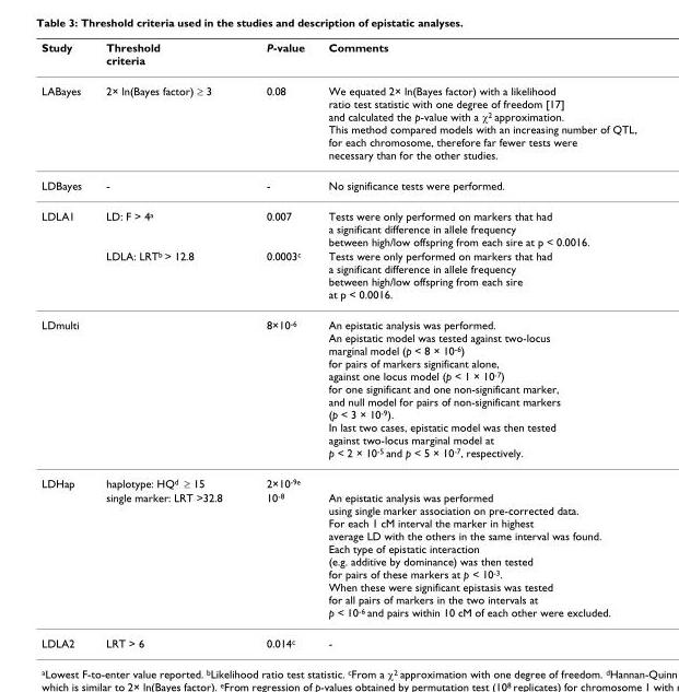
<table><thead><tr><td>Study</td><td>Threshold criteria</td><td>P-value</td><td>Comments</td></tr></thead><tbody><tr><td>LABayes</td><td>2× ln(Bayes factor) ≥ 3</td><td>0.08</td><td>We equated 2× ln(Bayes factor) with a likelihood ratio test statistic with one degree of freedom [17] and calculated the p-value with a χ<sup>2</sup> approximation. This method compared models with an increasing number of QTL, for each chromosome, therefore far fewer tests were necessary than for the other studies.</td></tr><tr><td>LDBayes</td><td>-</td><td>-</td><td>No significance tests were performed.</td></tr><tr><td rowspan="2">LDLA1</td><td>LD: F &gt; 4<sup>a</sup></td><td>0.007</td><td>Tests were only performed on markers that had a significant difference in allele frequency between high/low offspring from each sire at p &lt; 0.0016.</td></tr><tr><td>LDLA: LRT<sup>b</sup> &gt; 12.8</td><td>0.0003<sup>c</sup></td><td>Tests were only performed on markers that had a significant difference in allele frequency between high/low offspring from each sire at p &lt; 0.0016.</td></tr><tr><td>LDmulti</td><td></td><td>8×10<sup>-6</sup></td><td>An epistatic analysis was performed. An epistatic model was tested against two-locus marginal model (p &lt; 8 × 10<sup>-6</sup>) for pairs of markers significant alone, against one locus model (p &lt; 1 × 10<sup>-7</sup>) for one significant and one non-significant marker, and null model for pairs of non-significant markers (p &lt; 3 × 10<sup>-9</sup>). In last two cases, epistatic model was then tested against two-locus marginal model at p &lt; 2 × 10<sup>-5</sup> and p &lt; 5 × 10<sup>-7</sup>, respectively.</td></tr><tr><td rowspan="2">LDHap</td><td>haplotype: HQ<sup>d</sup> ≥ 15</td><td>2×10<sup>-9e</sup></td><td></td></tr><tr><td>single marker: LRT &gt;32.8</td><td>10<sup>-8</sup></td><td>An epistatic analysis was performed using single marker association on pre-corrected data. For each 1 cM interval the marker in highest average LD with the others in the same interval was found. Each type of epistatic interaction (e.g. additive by dominance) was then tested for pairs of these markers at p &lt; 10<sup>-3</sup>. When these were significant epistasis was tested for all pairs of markers in the two intervals at p &lt; 10<sup>-6</sup> and pairs within 10 cM of each other were excluded.</td></tr><tr><td>LDLA2</td><td>LRT &gt; 6</td><td>0.014<sup>c</sup></td><td>-</td></tr></tbody></table>